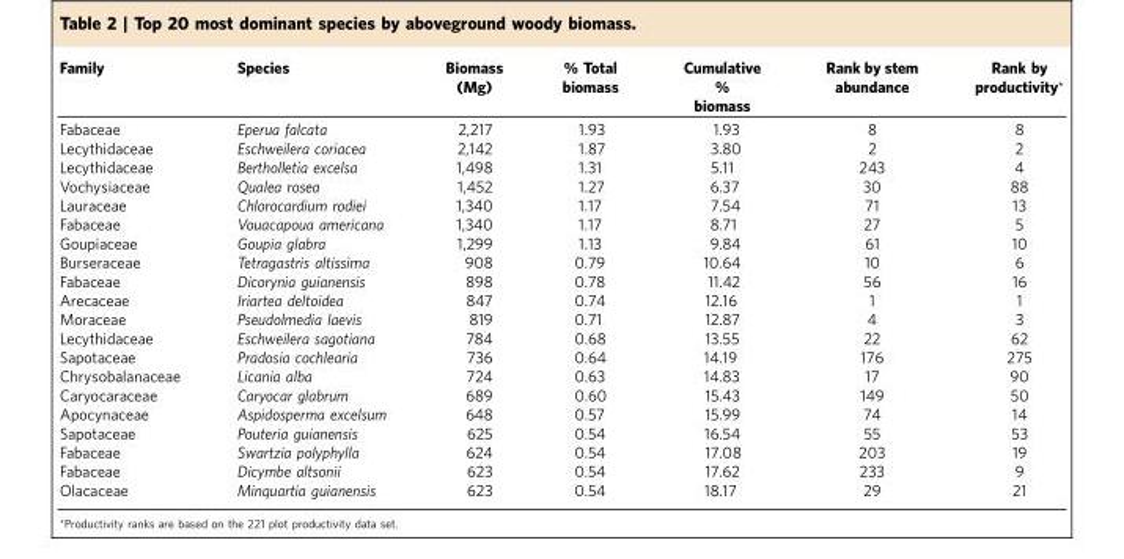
<table><thead><tr><td>Family</td><td>Species</td><td>Biomass (Mg)</td><td>% Total biomass</td><td>Cumulative % biomass</td><td>Rank by stem abundance</td><td>Rank by productivity*</td></tr></thead><tbody><tr><td>Fabaceae</td><td>Eperua falcata</td><td>2,217</td><td>1.93</td><td>1.93</td><td>8</td><td>8</td></tr><tr><td>Lecythidaceae</td><td>Eschweilera coriacea</td><td>2,142</td><td>1.87</td><td>3.80</td><td>2</td><td>2</td></tr><tr><td>Lecythidaceae</td><td>Bertholletia excelsa</td><td>1,498</td><td>1.31</td><td>5.11</td><td>243</td><td>4</td></tr><tr><td>Vochysiaceae</td><td>Qualea rosea</td><td>1,452</td><td>1.27</td><td>6.37</td><td>30</td><td>88</td></tr><tr><td>Lauraceae</td><td>Chlorocardium rodiei</td><td>1,340</td><td>1.17</td><td>7.54</td><td>71</td><td>13</td></tr><tr><td>Fabaceae</td><td>Vouacapoua americana</td><td>1,340</td><td>1.17</td><td>8.71</td><td>27</td><td>5</td></tr><tr><td>Goupiaceae</td><td>Goupia glabra</td><td>1,299</td><td>1.13</td><td>9.84</td><td>61</td><td>10</td></tr><tr><td>Burseraceae</td><td>Tetragastris altissima</td><td>908</td><td>0.79</td><td>10.64</td><td>10</td><td>6</td></tr><tr><td>Fabaceae</td><td>Dicorynia guianensis</td><td>898</td><td>0.78</td><td>11.42</td><td>56</td><td>16</td></tr><tr><td>Arecaceae</td><td>Iriartea deltoidea</td><td>847</td><td>0.74</td><td>12.16</td><td>1</td><td>1</td></tr><tr><td>Moraceae</td><td>Pseudolmedia laevis</td><td>819</td><td>0.71</td><td>12.87</td><td>4</td><td>3</td></tr><tr><td>Lecythidaceae</td><td>Eschweilera sagotiana</td><td>784</td><td>0.68</td><td>13.55</td><td>22</td><td>62</td></tr><tr><td>Sapotaceae</td><td>Pradosia cochlearia</td><td>736</td><td>0.64</td><td>14.19</td><td>176</td><td>275</td></tr><tr><td>Chrysobalanaceae</td><td>Licania alba</td><td>724</td><td>0.63</td><td>14.83</td><td>17</td><td>90</td></tr><tr><td>Caryocaraceae</td><td>Caryocar glabrum</td><td>689</td><td>0.60</td><td>15.43</td><td>149</td><td>50</td></tr><tr><td>Apocynaceae</td><td>Aspidosperma excelsum</td><td>648</td><td>0.57</td><td>15.99</td><td>74</td><td>14</td></tr><tr><td>Sapotaceae</td><td>Pouteria guianensis</td><td>625</td><td>0.54</td><td>16.54</td><td>55</td><td>53</td></tr><tr><td>Fabaceae</td><td>Swartzia polyphylla</td><td>624</td><td>0.54</td><td>17.08</td><td>203</td><td>19</td></tr><tr><td>Fabaceae</td><td>Dicymbe altsonii</td><td>623</td><td>0.54</td><td>17.62</td><td>233</td><td>9</td></tr><tr><td>Olacaceae</td><td>Minquartia guianensis</td><td>623</td><td>0.54</td><td>18.17</td><td>29</td><td>21</td></tr></tbody></table>